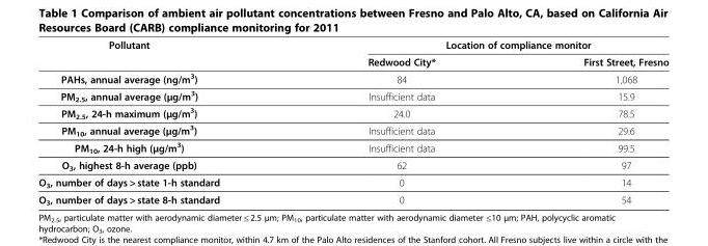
<table><thead><tr><td rowspan="2">Pollutant</td><td colspan="2">Location of compliance monitor</td></tr><tr><td>Redwood City*</td><td>First Street, Fresno</td></tr></thead><tbody><tr><td>PAHs, annual average (ng/m<sup>3</sup>)</td><td>84</td><td>1,068</td></tr><tr><td>PM<sub>2.5</sub>, annual average (μg/m<sup>3</sup>)</td><td>Insufficient data</td><td>15.9</td></tr><tr><td>PM<sub>2.5</sub>, 24-h maximum (μg/m<sup>3</sup>)</td><td>24.0</td><td>78.5</td></tr><tr><td>PM<sub>10</sub>, annual average (μg/m<sup>3</sup>)</td><td>Insufficient data</td><td>29.6</td></tr><tr><td>PM<sub>10</sub>, 24-h high (μg/m<sup>3</sup>)</td><td>Insufficient data</td><td>99.5</td></tr><tr><td>O<sub>3</sub>, highest 8-h average (ppb)</td><td>62</td><td>97</td></tr><tr><td>O<sub>3</sub>, number of days &gt; state 1-h standard</td><td>0</td><td>14</td></tr><tr><td>O<sub>3</sub>, number of days &gt; state 8-h standard</td><td>0</td><td>54</td></tr></tbody></table>